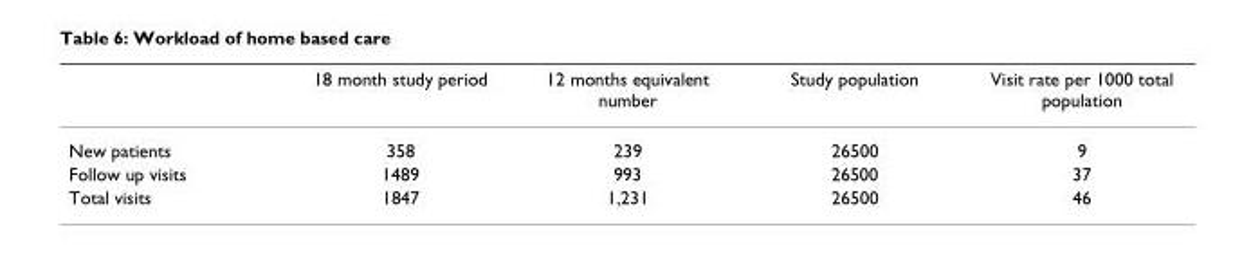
<table><thead><tr><td></td><td>18 month study period</td><td>12 months equivalent number</td><td>Study population</td><td>Visit rate per 1000 total population</td></tr></thead><tbody><tr><td>New patients</td><td>358</td><td>239</td><td>26500</td><td>9</td></tr><tr><td>Follow up visits</td><td>1489</td><td>993</td><td>26500</td><td>37</td></tr><tr><td>Total visits</td><td>1847</td><td>1,231</td><td>26500</td><td>46</td></tr></tbody></table>